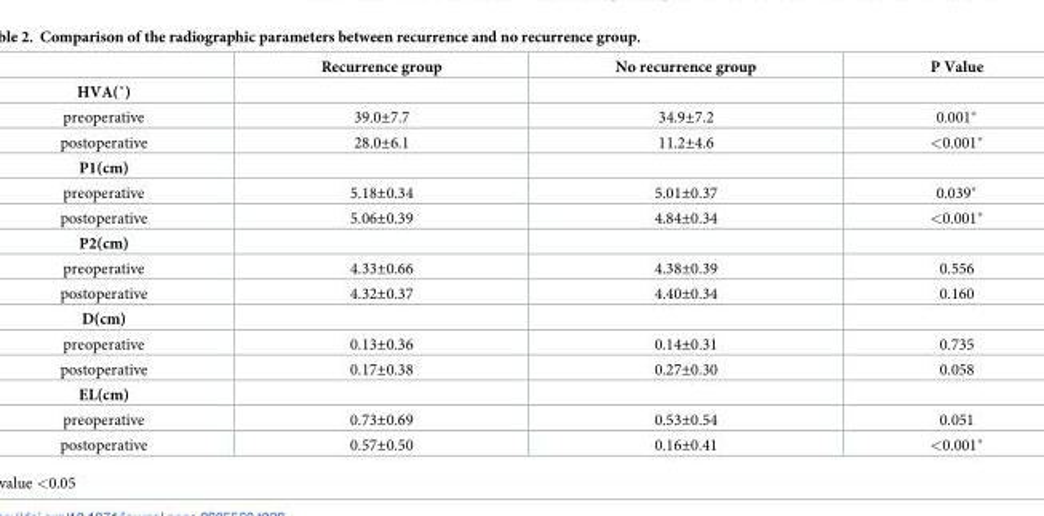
<table><thead><tr><td></td><td>Recurrence group</td><td>No recurrence group</td><td>P Value</td></tr></thead><tbody><tr><td colspan="4">HVA(˚)</td></tr><tr><td>preoperative</td><td>39.0±7.7</td><td>34.9±7.2</td><td>0.001*</td></tr><tr><td>postoperative</td><td>28.0±6.1</td><td>11.2±4.6</td><td>&lt;0.001*</td></tr><tr><td colspan="4">P1(cm)</td></tr><tr><td>preoperative</td><td>5.18±0.34</td><td>5.01±0.37</td><td>0.039*</td></tr><tr><td>postoperative</td><td>5.06±0.39</td><td>4.84±0.34</td><td>&lt;0.001*</td></tr><tr><td colspan="4">P2(cm)</td></tr><tr><td>preoperative</td><td>4.33±0.66</td><td>4.38±0.39</td><td>0.556</td></tr><tr><td>postoperative</td><td>4.32±0.37</td><td>4.40±0.34</td><td>0.160</td></tr><tr><td colspan="4">D(cm)</td></tr><tr><td>preoperative</td><td>0.13±0.36</td><td>0.14±0.31</td><td>0.735</td></tr><tr><td>postoperative</td><td>0.17±0.38</td><td>0.27±0.30</td><td>0.058</td></tr><tr><td colspan="4">EL(cm)</td></tr><tr><td>preoperative</td><td>0.73±0.69</td><td>0.53±0.54</td><td>0.051</td></tr><tr><td>postoperative</td><td>0.57±0.50</td><td>0.16±0.41</td><td>&lt;0.001*</td></tr></tbody></table>